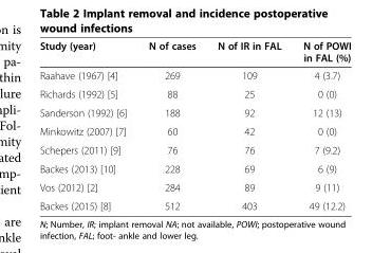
<table><thead><tr><td>Study (year)</td><td>N of cases</td><td>N of IR in FAL</td><td>N of POWI in FAL (%)</td></tr></thead><tbody><tr><td>Raahave (1967) [4]</td><td>269</td><td>109</td><td>4 (3.7)</td></tr><tr><td>Richards (1992) [5]</td><td>88</td><td>25</td><td>0 (0)</td></tr><tr><td>Sanderson (1992) [6]</td><td>188</td><td>92</td><td>12 (13)</td></tr><tr><td>Minkowitz (2007) [7]</td><td>60</td><td>42</td><td>0 (0)</td></tr><tr><td>Schepers (2011) [9]</td><td>76</td><td>76</td><td>7 (9.2)</td></tr><tr><td>Backes (2013) [10]</td><td>228</td><td>69</td><td>6 (9)</td></tr><tr><td>Vos (2012) [2]</td><td>284</td><td>89</td><td>9 (11)</td></tr><tr><td>Backes (2015) [8]</td><td>512</td><td>403</td><td>49 (12.2)</td></tr></tbody></table>